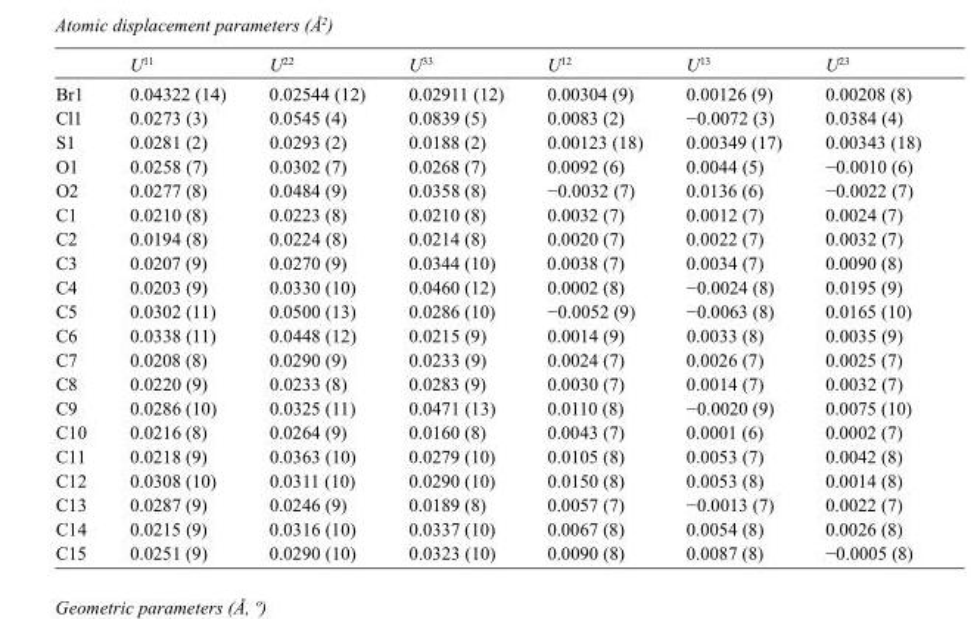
<table><thead><tr><td></td><td>U<sup>11</sup></td><td>U<sup>22</sup></td><td>U<sup>33</sup></td><td>U<sup>12</sup></td><td>U<sup>13</sup></td><td>U<sup>23</sup></td></tr></thead><tbody><tr><td>Br1</td><td>0.04322 (14)</td><td>0.02544 (12)</td><td>0.02911 (12)</td><td>0.00304 (9)</td><td>0.00126 (9)</td><td>0.00208 (8)</td></tr><tr><td>Cl1</td><td>0.0273 (3)</td><td>0.0545 (4)</td><td>0.0839 (5)</td><td>0.0083 (2)</td><td>−0.0072 (3)</td><td>0.0384 (4)</td></tr><tr><td>S1</td><td>0.0281 (2)</td><td>0.0293 (2)</td><td>0.0188 (2)</td><td>0.00123 (18)</td><td>0.00349 (17)</td><td>0.00343 (18)</td></tr><tr><td>O1</td><td>0.0258 (7)</td><td>0.0302 (7)</td><td>0.0268 (7)</td><td>0.0092 (6)</td><td>0.0044 (5)</td><td>−0.0010 (6)</td></tr><tr><td>O2</td><td>0.0277 (8)</td><td>0.0484 (9)</td><td>0.0358 (8)</td><td>−0.0032 (7)</td><td>0.0136 (6)</td><td>−0.0022 (7)</td></tr><tr><td>C1</td><td>0.0210 (8)</td><td>0.0223 (8)</td><td>0.0210 (8)</td><td>0.0032 (7)</td><td>0.0012 (7)</td><td>0.0024 (7)</td></tr><tr><td>C2</td><td>0.0194 (8)</td><td>0.0224 (8)</td><td>0.0214 (8)</td><td>0.0020 (7)</td><td>0.0022 (7)</td><td>0.0032 (7)</td></tr><tr><td>C3</td><td>0.0207 (9)</td><td>0.0270 (9)</td><td>0.0344 (10)</td><td>0.0038 (7)</td><td>0.0034 (7)</td><td>0.0090 (8)</td></tr><tr><td>C4</td><td>0.0203 (9)</td><td>0.0330 (10)</td><td>0.0460 (12)</td><td>0.0002 (8)</td><td>−0.0024 (8)</td><td>0.0195 (9)</td></tr><tr><td>C5</td><td>0.0302 (11)</td><td>0.0500 (13)</td><td>0.0286 (10)</td><td>−0.0052 (9)</td><td>−0.0063 (8)</td><td>0.0165 (10)</td></tr><tr><td>C6</td><td>0.0338 (11)</td><td>0.0448 (12)</td><td>0.0215 (9)</td><td>0.0014 (9)</td><td>0.0033 (8)</td><td>0.0035 (9)</td></tr><tr><td>C7</td><td>0.0208 (8)</td><td>0.0290 (9)</td><td>0.0233 (9)</td><td>0.0024 (7)</td><td>0.0026 (7)</td><td>0.0025 (7)</td></tr><tr><td>C8</td><td>0.0220 (9)</td><td>0.0233 (8)</td><td>0.0283 (9)</td><td>0.0030 (7)</td><td>0.0014 (7)</td><td>0.0032 (7)</td></tr><tr><td>C9</td><td>0.0286 (10)</td><td>0.0325 (11)</td><td>0.0471 (13)</td><td>0.0110 (8)</td><td>−0.0020 (9)</td><td>0.0075 (10)</td></tr><tr><td>C10</td><td>0.0216 (8)</td><td>0.0264 (9)</td><td>0.0160 (8)</td><td>0.0043 (7)</td><td>0.0001 (6)</td><td>0.0002 (7)</td></tr><tr><td>C11</td><td>0.0218 (9)</td><td>0.0363 (10)</td><td>0.0279 (10)</td><td>0.0105 (8)</td><td>0.0053 (7)</td><td>0.0042 (8)</td></tr><tr><td>C12</td><td>0.0308 (10)</td><td>0.0311 (10)</td><td>0.0290 (10)</td><td>0.0150 (8)</td><td>0.0053 (8)</td><td>0.0014 (8)</td></tr><tr><td>C13</td><td>0.0287 (9)</td><td>0.0246 (9)</td><td>0.0189 (8)</td><td>0.0057 (7)</td><td>−0.0013 (7)</td><td>0.0022 (7)</td></tr><tr><td>C14</td><td>0.0215 (9)</td><td>0.0316 (10)</td><td>0.0337 (10)</td><td>0.0067 (8)</td><td>0.0054 (8)</td><td>0.0026 (8)</td></tr><tr><td>C15</td><td>0.0251 (9)</td><td>0.0290 (10)</td><td>0.0323 (10)</td><td>0.0090 (8)</td><td>0.0087 (8)</td><td>−0.0005 (8)</td></tr></tbody></table>